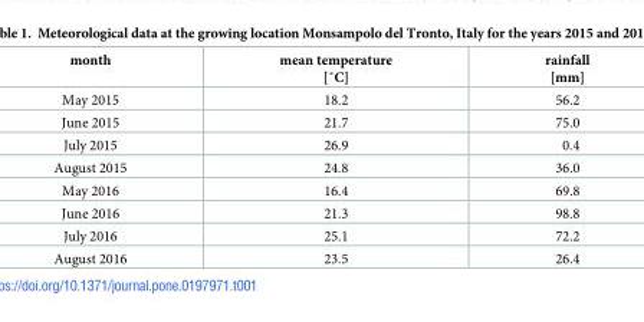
<table><thead><tr><td>month</td><td>mean temperature [˚C]</td><td>rainfall [mm]</td></tr></thead><tbody><tr><td>May 2015</td><td>18.2</td><td>56.2</td></tr><tr><td>June 2015</td><td>21.7</td><td>75.0</td></tr><tr><td>July 2015</td><td>26.9</td><td>0.4</td></tr><tr><td>August 2015</td><td>24.8</td><td>36.0</td></tr><tr><td>May 2016</td><td>16.4</td><td>69.8</td></tr><tr><td>June 2016</td><td>21.3</td><td>98.8</td></tr><tr><td>July 2016</td><td>25.1</td><td>72.2</td></tr><tr><td>August 2016</td><td>23.5</td><td>26.4</td></tr></tbody></table>